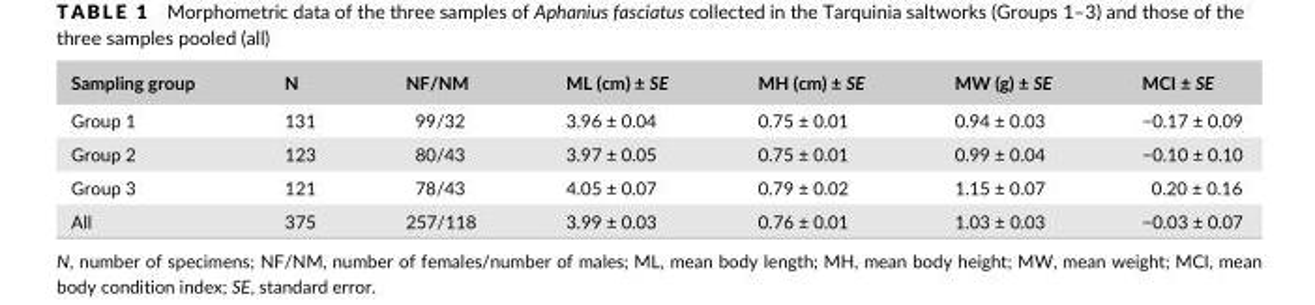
<table><thead><tr><td>Sampling group</td><td>N</td><td>NF/NM</td><td>ML (cm) ± SE</td><td>MH (cm) ± SE</td><td>MW (g) ± SE</td><td>MCI ± SE</td></tr></thead><tbody><tr><td>Group 1</td><td>131</td><td>99/32</td><td>3.96 ± 0.04</td><td>0.75 ± 0.01</td><td>0.94 ± 0.03</td><td>−0.17 ± 0.09</td></tr><tr><td>Group 2</td><td>123</td><td>80/43</td><td>3.97 ± 0.05</td><td>0.75 ± 0.01</td><td>0.99 ± 0.04</td><td>−0.10 ± 0.10</td></tr><tr><td>Group 3</td><td>121</td><td>78/43</td><td>4.05 ± 0.07</td><td>0.79 ± 0.02</td><td>1.15 ± 0.07</td><td>0.20 ± 0.16</td></tr><tr><td>All</td><td>375</td><td>257/118</td><td>3.99 ± 0.03</td><td>0.76 ± 0.01</td><td>1.03 ± 0.03</td><td>−0.03 ± 0.07</td></tr></tbody></table>